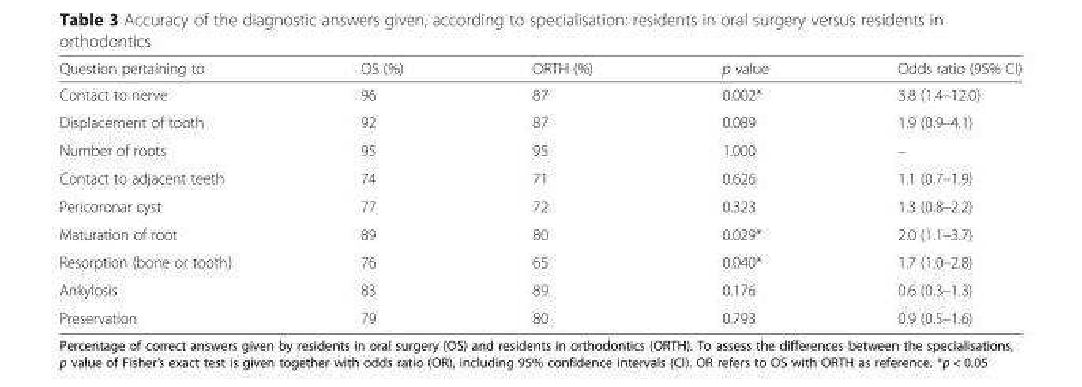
<table><thead><tr><td>Question pertaining to</td><td>OS (%)</td><td>ORTH (%)</td><td>p value</td><td>Odds ratio (95% CI)</td></tr></thead><tbody><tr><td>Contact to nerve</td><td>96</td><td>87</td><td>0.002*</td><td>3.8 (1.4–12.0)</td></tr><tr><td>Displacement of tooth</td><td>92</td><td>87</td><td>0.089</td><td>1.9 (0.9–4.1)</td></tr><tr><td>Number of roots</td><td>95</td><td>95</td><td>1.000</td><td>–</td></tr><tr><td>Contact to adjacent teeth</td><td>74</td><td>71</td><td>0.626</td><td>1.1 (0.7–1.9)</td></tr><tr><td>Pericoronar cyst</td><td>77</td><td>72</td><td>0.323</td><td>1.3 (0.8–2.2)</td></tr><tr><td>Maturation of root</td><td>89</td><td>80</td><td>0.029*</td><td>2.0 (1.1–3.7)</td></tr><tr><td>Resorption (bone or tooth)</td><td>76</td><td>65</td><td>0.040*</td><td>1.7 (1.0–2.8)</td></tr><tr><td>Ankylosis</td><td>83</td><td>89</td><td>0.176</td><td>0.6 (0.3–1.3)</td></tr><tr><td>Preservation</td><td>79</td><td>80</td><td>0.793</td><td>0.9 (0.5–1.6)</td></tr></tbody></table>